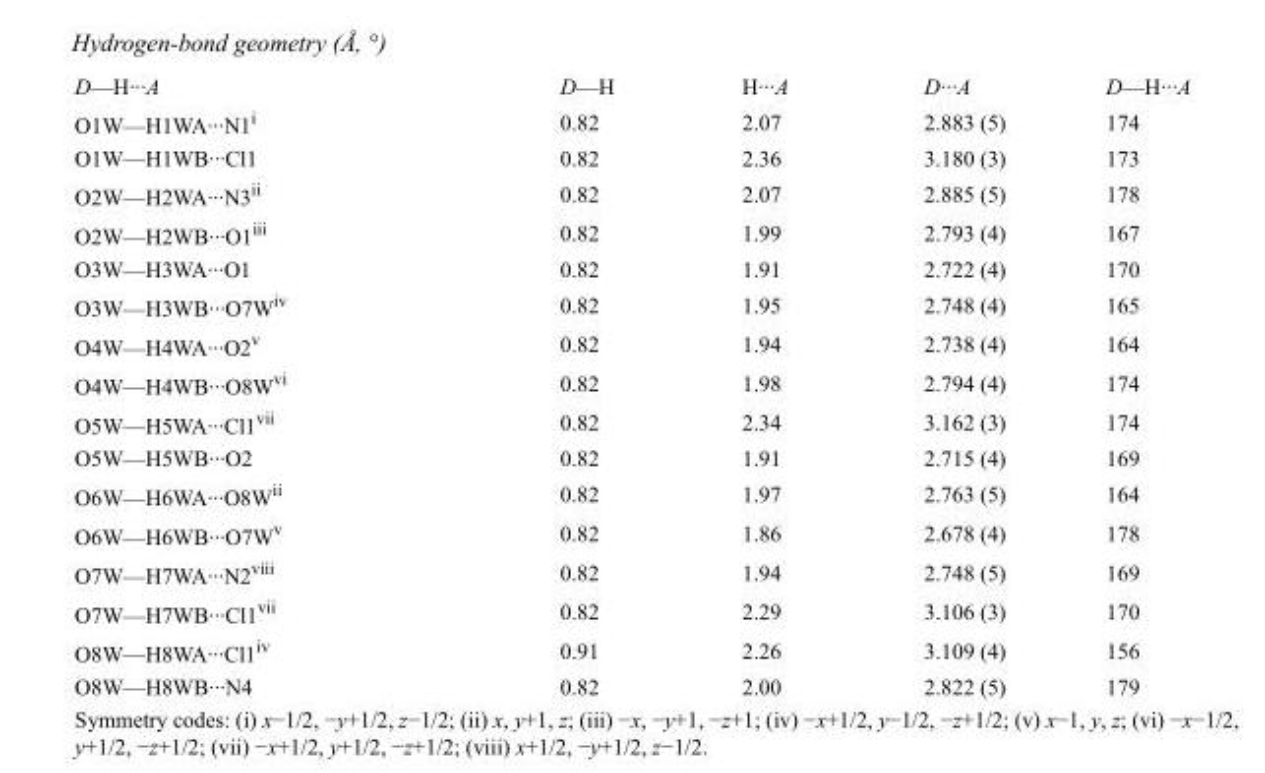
<table><tbody><tr><td>D—H···A</td><td>D—H</td><td>H···A</td><td>D···A</td><td>D—H···A</td></tr><tr><td>O1W—H1WA···N1<sup>i</sup></td><td>0.82</td><td>2.07</td><td>2.883 (5)</td><td>174</td></tr><tr><td>O1W—H1WB···Cl1</td><td>0.82</td><td>2.36</td><td>3.180 (3)</td><td>173</td></tr><tr><td>O2W—H2WA···N3<sup>ii</sup></td><td>0.82</td><td>2.07</td><td>2.885 (5)</td><td>178</td></tr><tr><td>O2W—H2WB···O1<sup>iii</sup></td><td>0.82</td><td>1.99</td><td>2.793 (4)</td><td>167</td></tr><tr><td>O3W—H3WA···O1</td><td>0.82</td><td>1.91</td><td>2.722 (4)</td><td>170</td></tr><tr><td>O3W—H3WB···O7W<sup>iv</sup></td><td>0.82</td><td>1.95</td><td>2.748 (4)</td><td>165</td></tr><tr><td>O4W—H4WA···O2<sup>v</sup></td><td>0.82</td><td>1.94</td><td>2.738 (4)</td><td>164</td></tr><tr><td>O4W—H4WB···O8W<sup>vi</sup></td><td>0.82</td><td>1.98</td><td>2.794 (4)</td><td>174</td></tr><tr><td>O5W—H5WA···Cl1<sup>vii</sup></td><td>0.82</td><td>2.34</td><td>3.162 (3)</td><td>174</td></tr><tr><td>O5W—H5WB···O2</td><td>0.82</td><td>1.91</td><td>2.715 (4)</td><td>169</td></tr><tr><td>O6W—H6WA···O8W<sup>ii</sup></td><td>0.82</td><td>1.97</td><td>2.763 (5)</td><td>164</td></tr><tr><td>O6W—H6WB···O7W<sup>v</sup></td><td>0.82</td><td>1.86</td><td>2.678 (4)</td><td>178</td></tr><tr><td>O7W—H7WA···N2<sup>viii</sup></td><td>0.82</td><td>1.94</td><td>2.748 (5)</td><td>169</td></tr><tr><td>O7W—H7WB···Cl1<sup>vii</sup></td><td>0.82</td><td>2.29</td><td>3.106 (3)</td><td>170</td></tr><tr><td>O8W—H8WA···Cl1<sup>iv</sup></td><td>0.91</td><td>2.26</td><td>3.109 (4)</td><td>156</td></tr><tr><td>O8W—H8WB···N4</td><td>0.82</td><td>2.00</td><td>2.822 (5)</td><td>179</td></tr></tbody></table>